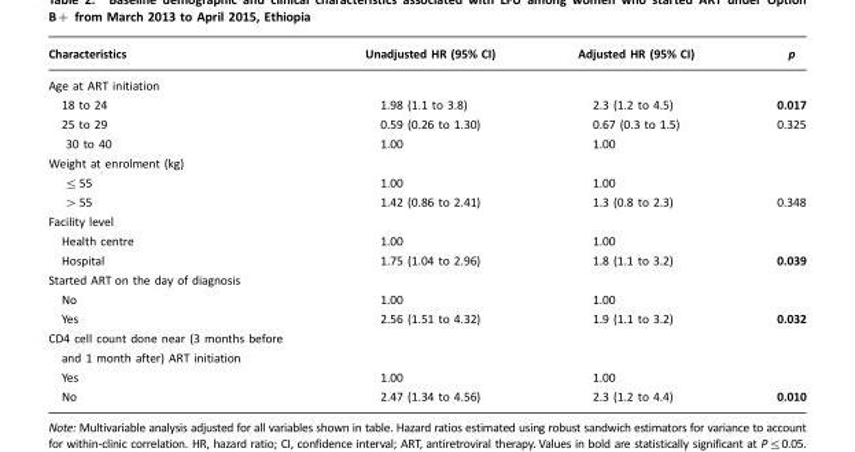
<table><thead><tr><td>Characteristics</td><td>Unadjusted HR (95% CI)</td><td>Adjusted HR (95% CI)</td><td>p</td></tr></thead><tbody><tr><td colspan="4">Age at ART initiation</td></tr><tr><td>18 to 24</td><td>1.98 (1.1 to 3.8)</td><td>2.3 (1.2 to 4.5)</td><td>0.017</td></tr><tr><td>25 to 29</td><td>0.59 (0.26 to 1.30)</td><td>0.67 (0.3 to 1.5)</td><td>0.325</td></tr><tr><td>30 to 40</td><td>1.00</td><td>1.00</td><td></td></tr><tr><td colspan="4">Weight at enrolment (kg)</td></tr><tr><td>≤55</td><td>1.00</td><td>1.00</td><td></td></tr><tr><td>&gt;55</td><td>1.42 (0.86 to 2.41)</td><td>1.3 (0.8 to 2.3)</td><td>0.348</td></tr><tr><td colspan="4">Facility level</td></tr><tr><td>Health centre</td><td>1.00</td><td>1.00</td><td></td></tr><tr><td>Hospital</td><td>1.75 (1.04 to 2.96)</td><td>1.8 (1.1 to 3.2)</td><td>0.039</td></tr><tr><td colspan="4">Started ART on the day of diagnosis</td></tr><tr><td>No</td><td>1.00</td><td>1.00</td><td></td></tr><tr><td>Yes</td><td>2.56 (1.51 to 4.32)</td><td>1.9 (1.1 to 3.2)</td><td>0.032</td></tr><tr><td colspan="4">CD4 cell count done near (3 months before and 1 month after) ART initiation</td></tr><tr><td>Yes</td><td>1.00</td><td>1.00</td><td></td></tr><tr><td>No</td><td>2.47 (1.34 to 4.56)</td><td>2.3 (1.2 to 4.4)</td><td>0.010</td></tr></tbody></table>